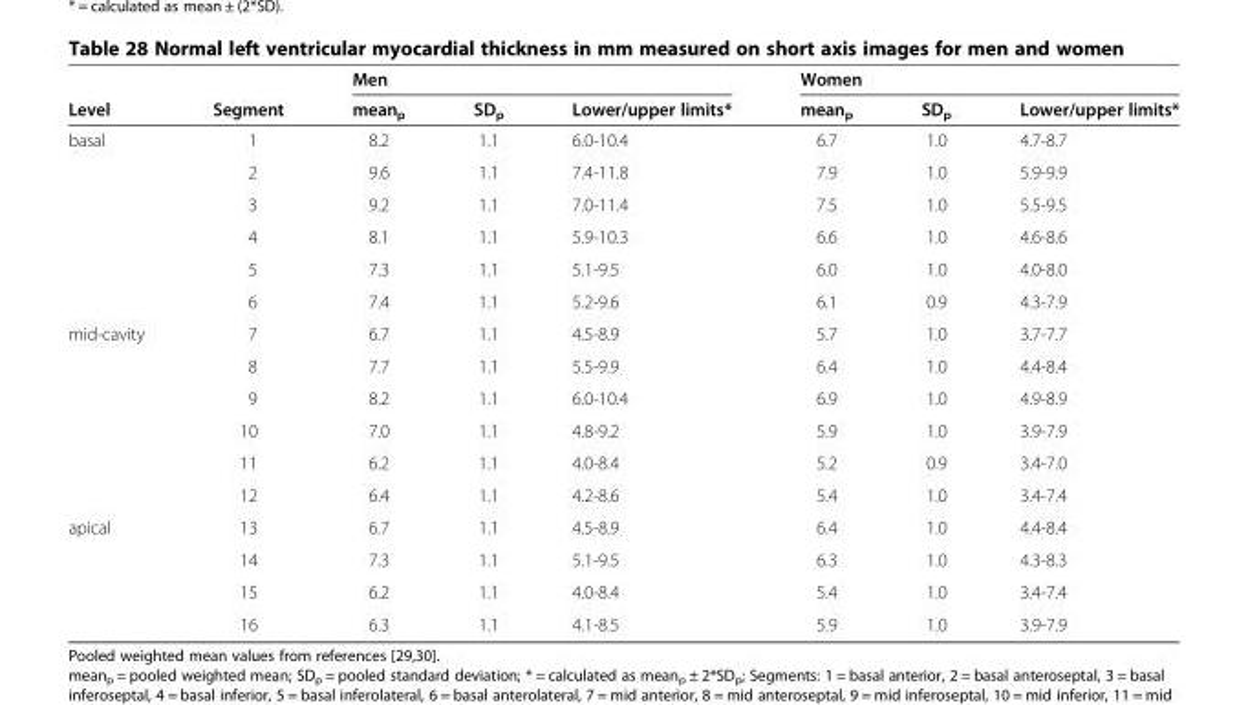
<table><thead><tr><td rowspan="2">Level</td><td rowspan="2">Segment</td><td colspan="3">Men</td><td colspan="3">Women</td></tr><tr><td>mean<sub>p</sub></td><td>SD<sub>p</sub></td><td>Lower/upper limits*</td><td>mean<sub>p</sub></td><td>SD<sub>p</sub></td><td>Lower/upper limits*</td></tr></thead><tbody><tr><td rowspan="6">basal</td><td>1</td><td>8.2</td><td>1.1</td><td>6.0-10.4</td><td>6.7</td><td>1.0</td><td>4.7-8.7</td></tr><tr><td>2</td><td>9.6</td><td>1.1</td><td>7.4-11.8</td><td>7.9</td><td>1.0</td><td>5.9-9.9</td></tr><tr><td>3</td><td>9.2</td><td>1.1</td><td>7.0-11.4</td><td>7.5</td><td>1.0</td><td>5.5-9.5</td></tr><tr><td>4</td><td>8.1</td><td>1.1</td><td>5.9-10.3</td><td>6.6</td><td>1.0</td><td>4.6-8.6</td></tr><tr><td>5</td><td>7.3</td><td>1.1</td><td>5.1-9.5</td><td>6.0</td><td>1.0</td><td>4.0-8.0</td></tr><tr><td>6</td><td>7.4</td><td>1.1</td><td>5.2-9.6</td><td>6.1</td><td>0.9</td><td>4.3-7.9</td></tr><tr><td rowspan="6">mid-cavity</td><td>7</td><td>6.7</td><td>1.1</td><td>4.5-8.9</td><td>5.7</td><td>1.0</td><td>3.7-7.7</td></tr><tr><td>8</td><td>7.7</td><td>1.1</td><td>5.5-9.9</td><td>6.4</td><td>1.0</td><td>4.4-8.4</td></tr><tr><td>9</td><td>8.2</td><td>1.1</td><td>6.0-10.4</td><td>6.9</td><td>1.0</td><td>4.9-8.9</td></tr><tr><td>10</td><td>7.0</td><td>1.1</td><td>4.8-9.2</td><td>5.9</td><td>1.0</td><td>3.9-7.9</td></tr><tr><td>11</td><td>6.2</td><td>1.1</td><td>4.0-8.4</td><td>5.2</td><td>0.9</td><td>3.4-7.0</td></tr><tr><td>12</td><td>6.4</td><td>1.1</td><td>4.2-8.6</td><td>5.4</td><td>1.0</td><td>3.4-7.4</td></tr><tr><td rowspan="4">apical</td><td>13</td><td>6.7</td><td>1.1</td><td>4.5-8.9</td><td>6.4</td><td>1.0</td><td>4.4-8.4</td></tr><tr><td>14</td><td>7.3</td><td>1.1</td><td>5.1-9.5</td><td>6.3</td><td>1.0</td><td>4.3-8.3</td></tr><tr><td>15</td><td>6.2</td><td>1.1</td><td>4.0-8.4</td><td>5.4</td><td>1.0</td><td>3.4-7.4</td></tr><tr><td>16</td><td>6.3</td><td>1.1</td><td>4.1-8.5</td><td>5.9</td><td>1.0</td><td>3.9-7.9</td></tr></tbody></table>